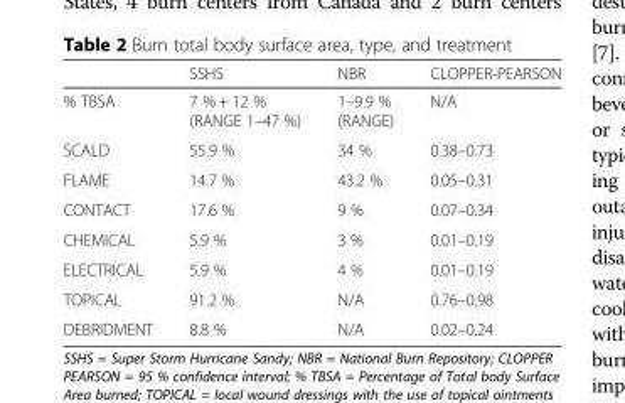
<table><thead><tr><td></td><td>SSHS</td><td>NBR</td><td>CLOPPER-PEARSON</td></tr></thead><tbody><tr><td>% TBSA</td><td>7 % + 12 % (RANGE 1–47 %)</td><td>1–9.9 % (RANGE)</td><td>N/A</td></tr><tr><td>SCALD</td><td>55.9 %</td><td>34 %</td><td>0.38–0.73</td></tr><tr><td>FLAME</td><td>14.7 %</td><td>43.2 %</td><td>0.05–0.31</td></tr><tr><td>CONTACT</td><td>17.6 %</td><td>9 %</td><td>0.07–0.34</td></tr><tr><td>CHEMICAL</td><td>5.9 %</td><td>3 %</td><td>0.01–0.19</td></tr><tr><td>ELECTRICAL</td><td>5.9 %</td><td>4 %</td><td>0.01–0.19</td></tr><tr><td>TOPICAL</td><td>91.2 %</td><td>N/A</td><td>0.76–0.98</td></tr><tr><td>DEBRIDMENT</td><td>8.8 %</td><td>N/A</td><td>0.02–0.24</td></tr></tbody></table>